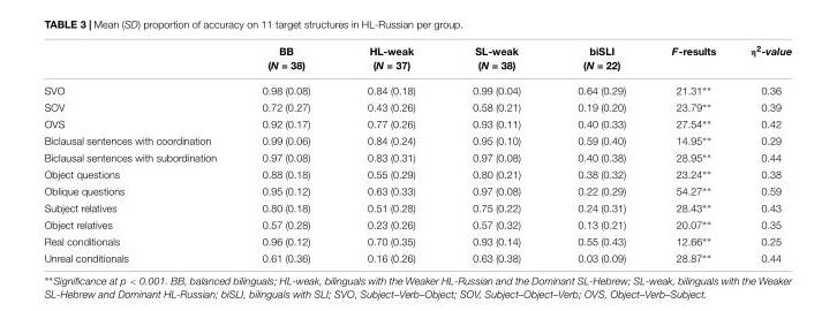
<table><thead><tr><td></td><td>BB (N = 38)</td><td>HL-weak (N = 37)</td><td>SL-weak (N = 38)</td><td>biSLI (N = 22)</td><td>F-results</td><td>η<sup>2</sup>-value</td></tr></thead><tbody><tr><td>SVO</td><td>0.98 (0.08)</td><td>0.84 (0.18)</td><td>0.99 (0.04)</td><td>0.64 (0.29)</td><td>21.31∗∗</td><td>0.36</td></tr><tr><td>SOV</td><td>0.72 (0.27)</td><td>0.43 (0.26)</td><td>0.58 (0.21)</td><td>0.19 (0.20)</td><td>23.79∗∗</td><td>0.39</td></tr><tr><td>OVS</td><td>0.92 (0.17)</td><td>0.77 (0.26)</td><td>0.93 (0.11)</td><td>0.40 (0.33)</td><td>27.54∗∗</td><td>0.42</td></tr><tr><td>Biclausal sentences with coordination</td><td>0.99 (0.06)</td><td>0.84 (0.24)</td><td>0.95 (0.10)</td><td>0.59 (0.40)</td><td>14.95∗∗</td><td>0.29</td></tr><tr><td>Biclausal sentences with subordination</td><td>0.97 (0.08)</td><td>0.83 (0.31)</td><td>0.97 (0.08)</td><td>0.40 (0.38)</td><td>28.95∗∗</td><td>0.44</td></tr><tr><td>Object questions</td><td>0.88 (0.18)</td><td>0.55 (0.29)</td><td>0.80 (0.21)</td><td>0.38 (0.32)</td><td>23.24∗∗</td><td>0.38</td></tr><tr><td>Oblique questions</td><td>0.95 (0.12)</td><td>0.63 (0.33)</td><td>0.97 (0.08)</td><td>0.22 (0.29)</td><td>54.27∗∗</td><td>0.59</td></tr><tr><td>Subject relatives</td><td>0.80 (0.18)</td><td>0.51 (0.28)</td><td>0.75 (0.22)</td><td>0.24 (0.31)</td><td>28.43∗∗</td><td>0.43</td></tr><tr><td>Object relatives</td><td>0.57 (0.28)</td><td>0.23 (0.26)</td><td>0.57 (0.32)</td><td>0.13 (0.21)</td><td>20.07∗∗</td><td>0.35</td></tr><tr><td>Real conditionals</td><td>0.96 (0.12)</td><td>0.70 (0.35)</td><td>0.93 (0.14)</td><td>0.55 (0.43)</td><td>12.66∗∗</td><td>0.25</td></tr><tr><td>Unreal conditionals</td><td>0.61 (0.36)</td><td>0.16 (0.26)</td><td>0.63 (0.38)</td><td>0.03 (0.09)</td><td>28.87∗∗</td><td>0.44</td></tr></tbody></table>